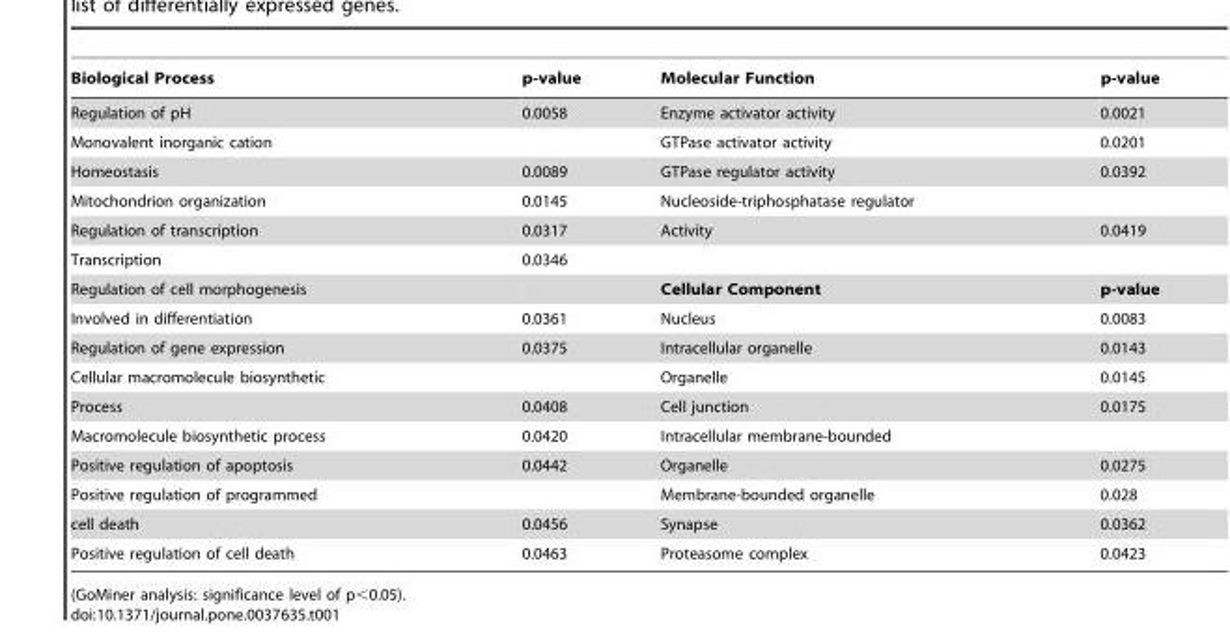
<table><thead><tr><td>Biological Process</td><td>p-value</td><td>Molecular Function</td><td>p-value</td></tr></thead><tbody><tr><td>Regulation of pH</td><td>0.0058</td><td>Enzyme activator activity</td><td>0.0021</td></tr><tr><td>Monovalent inorganic cation</td><td></td><td>GTPase activator activity</td><td>0.0201</td></tr><tr><td>Homeostasis</td><td>0.0089</td><td>GTPase regulator activity</td><td>0.0392</td></tr><tr><td>Mitochondrion organization</td><td>0.0145</td><td>Nucleoside-triphosphatase regulator</td><td></td></tr><tr><td>Regulation of transcription</td><td>0.0317</td><td>Activity</td><td>0.0419</td></tr><tr><td>Transcription</td><td>0.0346</td><td></td><td></td></tr><tr><td>Regulation of cell morphogenesis</td><td></td><td>Cellular Component</td><td>p-value</td></tr><tr><td>Involved in differentiation</td><td>0.0361</td><td>Nucleus</td><td>0.0083</td></tr><tr><td>Regulation of gene expression</td><td>0.0375</td><td>Intracellular organelle</td><td>0.0143</td></tr><tr><td>Cellular macromolecule biosynthetic</td><td></td><td>Organelle</td><td>0.0145</td></tr><tr><td>Process</td><td>0.0408</td><td>Cell junction</td><td>0.0175</td></tr><tr><td>Macromolecule biosynthetic process</td><td>0.0420</td><td>Intracellular membrane-bounded</td><td></td></tr><tr><td>Positive regulation of apoptosis</td><td>0.0442</td><td>Organelle</td><td>0.0275</td></tr><tr><td>Positive regulation of programmed</td><td></td><td>Membrane-bounded organelle</td><td>0.028</td></tr><tr><td>cell death</td><td>0.0456</td><td>Synapse</td><td>0.0362</td></tr><tr><td>Positive regulation of cell death</td><td>0.0463</td><td>Proteasome complex</td><td>0.0423</td></tr></tbody></table>